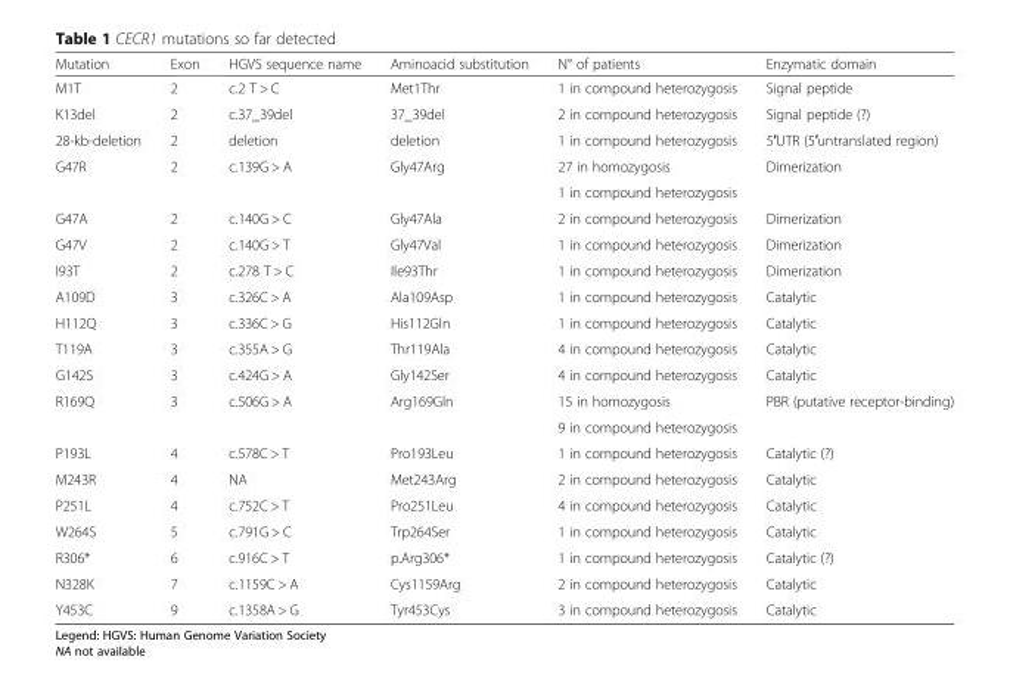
<table><thead><tr><td>Mutation</td><td>Exon</td><td>HGVS sequence name</td><td>Aminoacid substitution</td><td>N° of patients</td><td>Enzymatic domain</td></tr></thead><tbody><tr><td>M1T</td><td>2</td><td>c.2 T &gt; C</td><td>Met1Thr</td><td>1 in compound heterozygosis</td><td>Signal peptide</td></tr><tr><td>K13del</td><td>2</td><td>c.37_39del</td><td>37_39del</td><td>2 in compound heterozygosis</td><td>Signal peptide (?)</td></tr><tr><td>28-kb-deletion</td><td>2</td><td>deletion</td><td>deletion</td><td>1 in compound heterozygosis</td><td>5′UTR (5′untranslated region)</td></tr><tr><td rowspan="2">G47R</td><td rowspan="2">2</td><td rowspan="2">c.139G &gt; A</td><td rowspan="2">Gly47Arg</td><td>27 in homozygosis</td><td rowspan="2">Dimerization</td></tr><tr><td>1 in compound heterozygosis</td></tr><tr><td>G47A</td><td>2</td><td>c.140G &gt; C</td><td>Gly47Ala</td><td>2 in compound heterozygosis</td><td>Dimerization</td></tr><tr><td>G47V</td><td>2</td><td>c.140G &gt; T</td><td>Gly47Val</td><td>1 in compound heterozygosis</td><td>Dimerization</td></tr><tr><td>I93T</td><td>2</td><td>c.278 T &gt; C</td><td>Ile93Thr</td><td>1 in compound heterozygosis</td><td>Dimerization</td></tr><tr><td>A109D</td><td>3</td><td>c.326C &gt; A</td><td>Ala109Asp</td><td>1 in compound heterozygosis</td><td>Catalytic</td></tr><tr><td>H112Q</td><td>3</td><td>c.336C &gt; G</td><td>His112Gln</td><td>1 in compound heterozygosis</td><td>Catalytic</td></tr><tr><td>T119A</td><td>3</td><td>c.355A &gt; G</td><td>Thr119Ala</td><td>4 in compound heterozygosis</td><td>Catalytic</td></tr><tr><td>G142S</td><td>3</td><td>c.424G &gt; A</td><td>Gly142Ser</td><td>4 in compound heterozygosis</td><td>Catalytic</td></tr><tr><td rowspan="2">R169Q</td><td rowspan="2">3</td><td rowspan="2">c.506G &gt; A</td><td rowspan="2">Arg169Gln</td><td>15 in homozygosis</td><td rowspan="2">PBR (putative receptor-binding)</td></tr><tr><td>9 in compound heterozygosis</td></tr><tr><td>P193L</td><td>4</td><td>c.578C &gt; T</td><td>Pro193Leu</td><td>1 in compound heterozygosis</td><td>Catalytic (?)</td></tr><tr><td>M243R</td><td>4</td><td>NA</td><td>Met243Arg</td><td>2 in compound heterozygosis</td><td>Catalytic</td></tr><tr><td>P251L</td><td>4</td><td>c.752C &gt; T</td><td>Pro251Leu</td><td>4 in compound heterozygosis</td><td>Catalytic</td></tr><tr><td>W264S</td><td>5</td><td>c.791G &gt; C</td><td>Trp264Ser</td><td>1 in compound heterozygosis</td><td>Catalytic</td></tr><tr><td>R306*</td><td>6</td><td>c.916C &gt; T</td><td>p.Arg306*</td><td>1 in compound heterozygosis</td><td>Catalytic (?)</td></tr><tr><td>N328K</td><td>7</td><td>c.1159C &gt; A</td><td>Cys1159Arg</td><td>2 in compound heterozygosis</td><td>Catalytic</td></tr><tr><td>Y453C</td><td>9</td><td>c.1358A &gt; G</td><td>Tyr453Cys</td><td>3 in compound heterozygosis</td><td>Catalytic</td></tr></tbody></table>